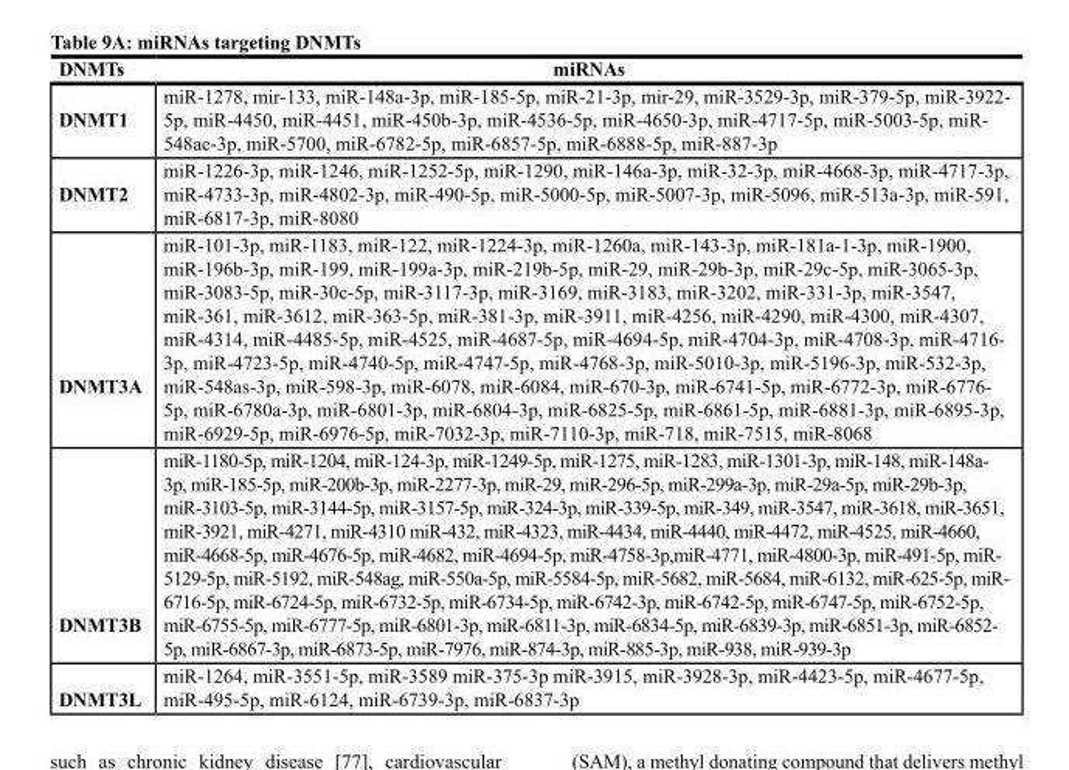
<table><thead><tr><td>DNMTs</td><td>miRNAs</td></tr></thead><tbody><tr><td>DNMT1</td><td>miR-1278, mir-133, miR-148a-3p, miR-185-5p, miR-21-3p, mir-29, miR-3529-3p, miR-379-5p, miR-3922- 5p, miR-4450, miR-4451, miR-450b-3p, miR-4536-5p, miR-4650-3p, miR-4717-5p, miR-5003-5p, miR- 548ae-3p, miR-5700, miR-6782-5p, miR-6857-5p, miR-6888-5p, miR-887-3p</td></tr><tr><td>DNMT2</td><td>miR-1226-3p, miR-1246, miR-1252-5p, miR-1290, miR-146a-3p, miR-32-3p, miR-4668-3p, miR-4717-3p, miR-4733-3p, miR-4802-3p, miR-490-5p, miR-5000-5p, miR-5007-3p, miR-5096, miR-513a-3p, miR-591, miR-6817-3p, miR-8080</td></tr><tr><td>DNMT3A</td><td>miR-101-3p, miR-1183, miR-122, miR-1224-3p, miR-1260a, miR-143-3p, miR-181a-1-3p, miR-1900, miR-196b-3p, miR-199, miR-199a-3p, miR-219b-5p, miR-29, miR-29b-3p, miR-29c-5p, miR-3065-3p, miR-3083-5p, miR-30c-5p, miR-3117-3p, miR-3169, miR-3183, miR-3202, miR-331-3p, miR-3547, miR-361, miR-3612, miR-363-5p, miR-381-3p, miR-3911, miR-4256, miR-4290, miR-4300, miR-4307, miR-4314, miR-4485-5p, miR-4525, miR-4687-5p, miR-4694-5p, miR-4704-3p, miR-4708-3p, miR-4716- 3p, miR-4723-5p, miR-4740-5p, miR-4747-5p, miR-4768-3p, miR-5010-3p, miR-5196-3p, miR-532-3p, miR-548as-3p, miR-598-3p, miR-6078, miR-6084, miR-670-3p, miR-6741-5p, miR-6772-3p, miR-6776- 5p, miR-6780a-3p, miR-6801-3p, miR-6804-3p, miR-6825-5p, miR-6861-5p, miR-6881-3p, miR-6895-3p, miR-6929-5p, miR-6976-5p, miR-7032-3p, miR-7110-3p, miR-718, miR-7515, miR-8068</td></tr><tr><td>DNMT3B</td><td>miR-1180-5p, miR-1204, miR-124-3p, miR-1249-5p, miR-1275, miR-1283, miR-1301-3p, miR-148, miR-148a- 3p, miR-185-5p, miR-200b-3p, miR-2277-3p, miR-29, miR-296-5p, miR-299a-3p, miR-29a-5p, miR-29b-3p, miR-3103-5p, miR-3144-5p, miR-3157-5p, miR-324-3p, miR-339-5p, miR-349, miR-3547, miR-3618, miR-3651, miR-3921, miR-4271, miR-4310 miR-432, miR-4323, miR-4434, miR-4440, miR-4472, miR-4525, miR-4660, miR-4668-5p, miR-4676-5p, miR-4682, miR-4694-5p, miR-4758-3p,miR-4771, miR-4800-3p, miR-491-5p, miR- 5129-5p, miR-5192, miR-548ag, miR-550a-5p, miR-5584-5p, miR-5682, miR-5684, miR-6132, miR-625-5p, miR- 6716-5p, miR-6724-5p, miR-6732-5p, miR-6734-5p, miR-6742-3p, miR-6742-5p, miR-6747-5p, miR-6752-5p, miR-6755-5p, miR-6777-5p, miR-6801-3p, miR-6811-3p, miR-6834-5p, miR-6839-3p, miR-6851-3p, miR-6852- 5p, miR-6867-3p, miR-6873-5p, miR-7976, miR-874-3p, miR-885-3p, miR-938, miR-939-3p</td></tr><tr><td>DNMT3L</td><td>miR-1264, miR-3551-5p, miR-3589 miR-375-3p miR-3915, miR-3928-3p, miR-4423-5p, miR-4677-5p, miR-495-5p, miR-6124, miR-6739-3p, miR-6837-3p</td></tr></tbody></table>